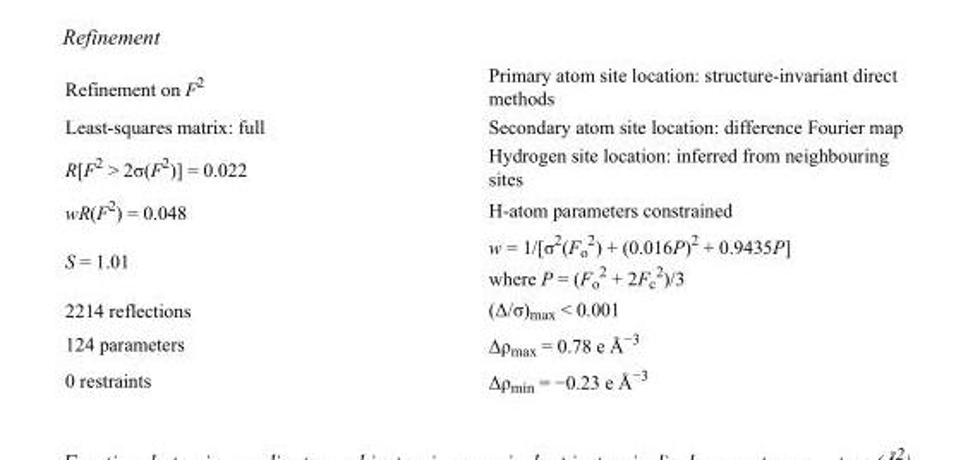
<table><tbody><tr><td>Refinement on F<sup>2</sup></td><td>Primary atom site location: structure-invariant direct methods</td></tr><tr><td>Least-squares matrix: full</td><td>Secondary atom site location: difference Fourier map</td></tr><tr><td>R[F<sup>2</sup> &gt; 2σ(F<sup>2</sup>)] = 0.022</td><td>Hydrogen site location: inferred from neighbouring sites</td></tr><tr><td>wR(F<sup>2</sup>) = 0.048</td><td>H-atom parameters constrained</td></tr><tr><td>S = 1.01</td><td>w = 1/[σ<sup>2</sup>(F<sub>o</sub> <sup>2</sup>) + (0.016P)<sup>2</sup> + 0.9435P] where P = (F<sub>o</sub> <sup>2</sup> + 2F<sub>c</sub> <sup>2</sup>)/3</td></tr><tr><td>2214 reflections</td><td>(Δ/σ)<sub>max</sub> &lt; 0.001</td></tr><tr><td>124 parameters</td><td>Δρ<sub>max</sub> = 0.78 e Å<sup>−3</sup></td></tr><tr><td>0 restraints</td><td>Δρ<sub>min</sub> = −0.23 e Å<sup>−3</sup></td></tr></tbody></table>